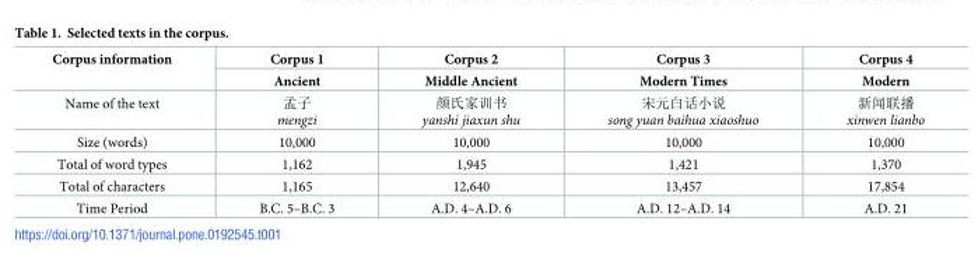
<table><thead><tr><td rowspan="2">Corpus information</td><td rowspan="2">Corpus 1 Ancient</td><td rowspan="2">Corpus 2 Middle Ancient</td><td rowspan="2">Corpus 3 Modern Times</td><td rowspan="2">Corpus 4 Modern</td></tr><tr></tr></thead><tbody><tr><td>Name of the text</td><td>孟子 mengzi</td><td>颜氏家训书 yanshi jiaxun shu</td><td>宋元白话小说 song yuan baihua xiaoshuo</td><td>新闻联播 xinwen lianbo</td></tr><tr><td>Size (words)</td><td>10,000</td><td>10,000</td><td>10,000</td><td>10,000</td></tr><tr><td>Total of word types</td><td>1,162</td><td>1,945</td><td>1,421</td><td>1,370</td></tr><tr><td>Total of characters</td><td>1,165</td><td>12,640</td><td>13,457</td><td>17,854</td></tr><tr><td>Time Period</td><td>B.C. 5–B.C. 3</td><td>A.D. 4–A.D. 6</td><td>A.D. 12–A.D. 14</td><td>A.D. 21</td></tr></tbody></table>